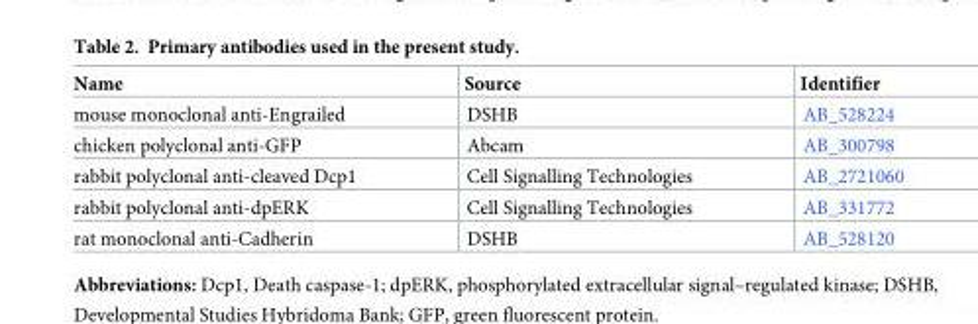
<table><thead><tr><td>Name</td><td>Source</td><td>Identifier</td></tr></thead><tbody><tr><td>mouse monoclonal anti-Engrailed</td><td>DSHB</td><td>AB_528224</td></tr><tr><td>chicken polyclonal anti-GFP</td><td>Abcam</td><td>AB_300798</td></tr><tr><td>rabbit polyclonal anti-cleaved Dcp1</td><td>Cell Signalling Technologies</td><td>AB_2721060</td></tr><tr><td>rabbit polyclonal anti-dpERK</td><td>Cell Signalling Technologies</td><td>AB_331772</td></tr><tr><td>rat monoclonal anti-Cadherin</td><td>DSHB</td><td>AB_528120</td></tr></tbody></table>